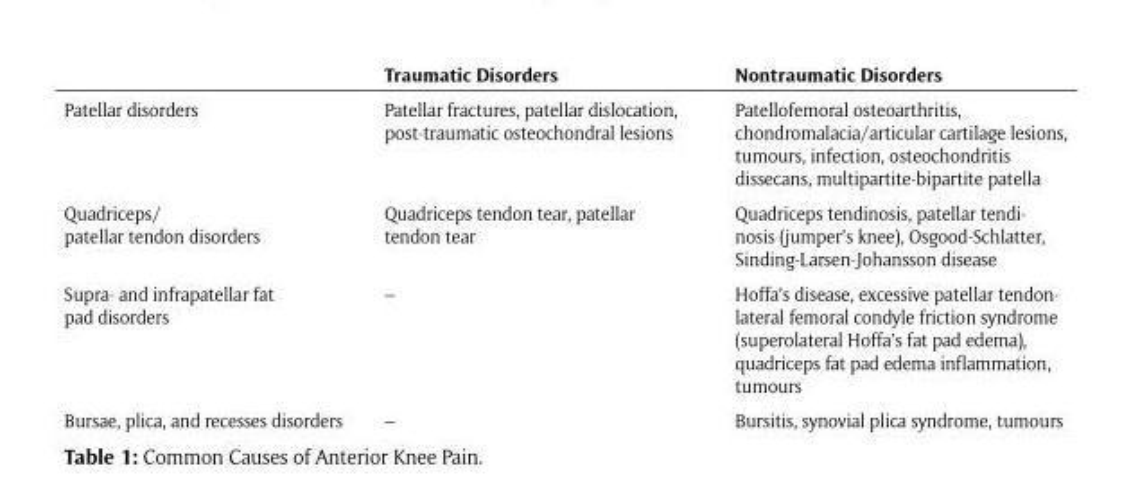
<table><thead><tr><td></td><td>Traumatic Disorders</td><td>Nontraumatic Disorders</td></tr></thead><tbody><tr><td>Patellar disorders</td><td>Patellar fractures, patellar dislocation, post-traumatic osteochondral lesions</td><td>Patellofemoral osteoarthritis, chondromalacia/articular cartilage lesions, tumours, infection, osteochondritis dissecans, multipartite-bipartite patella</td></tr><tr><td>Quadriceps/ patellar tendon disorders</td><td>Quadriceps tendon tear, patellar tendon tear</td><td>Quadriceps tendinosis, patellar tendi- nosis (jumper’s knee), Osgood-Schlatter, Sinding-Larsen-Johansson disease</td></tr><tr><td>Supra- and infrapatellar fat pad disorders</td><td>–</td><td>Hoffa’s disease, excessive patellar tendon- lateral femoral condyle friction syndrome (superolateral Hoffa’s fat pad edema), quadriceps fat pad edema inflammation, tumours</td></tr><tr><td>Bursae, plica, and recesses disorders</td><td>–</td><td>Bursitis, synovial plica syndrome, tumours</td></tr></tbody></table>